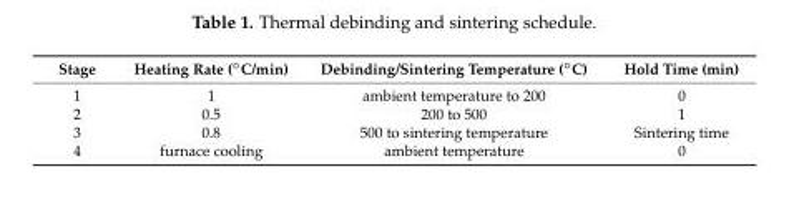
<table><thead><tr><td>Stage</td><td>Heating Rate (◦C/min)</td><td>Debinding/Sintering Temperature (◦C)</td><td>Hold Time (min)</td></tr></thead><tbody><tr><td>1</td><td>1</td><td>ambient temperature to 200</td><td>0</td></tr><tr><td>2</td><td>0.5</td><td>200 to 500</td><td>1</td></tr><tr><td>3</td><td>0.8</td><td>500 to sintering temperature</td><td>Sintering time</td></tr><tr><td>4</td><td>furnace cooling</td><td>ambient temperature</td><td>0</td></tr></tbody></table>